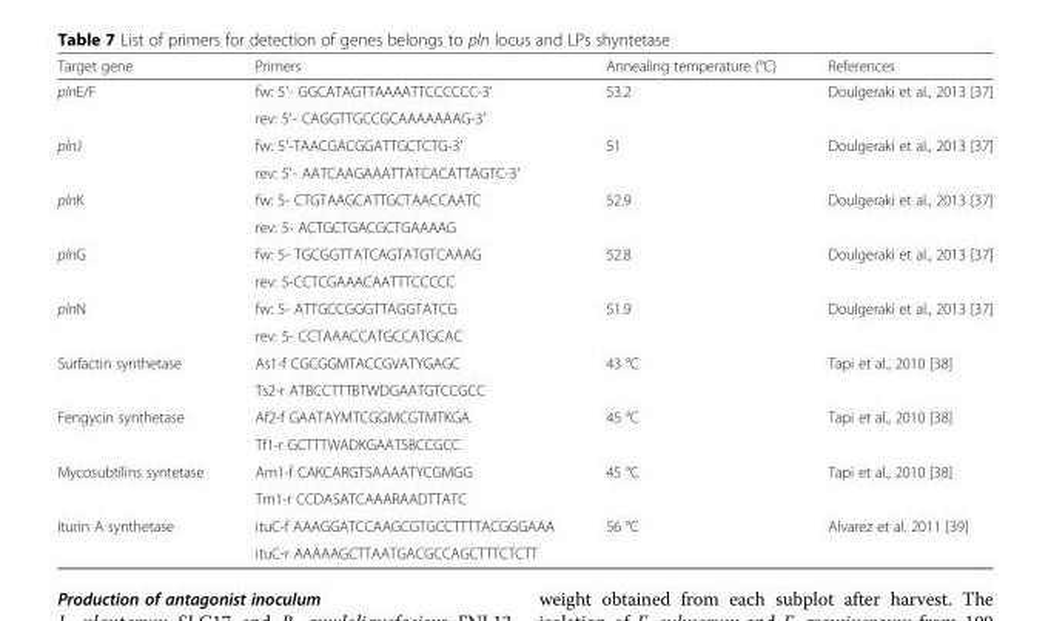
<table><thead><tr><td>Target gene</td><td>Primers</td><td>Annealing temperature (°C)</td><td>References</td></tr></thead><tbody><tr><td rowspan="2">plnE/F</td><td>fw: 5′- GGCATAGTTAAAATTCCCCCC-3′</td><td rowspan="2">53.2</td><td rowspan="2">Doulgeraki et al., 2013 [37]</td></tr><tr><td>rev: 5′- CAGGTTGCCGCAAAAAAAG-3′</td></tr><tr><td rowspan="2">plnJ</td><td>fw: 5′-TAACGACGGATTGCTCTG-3′</td><td rowspan="2">51</td><td rowspan="2">Doulgeraki et al., 2013 [37]</td></tr><tr><td>rev: 5′- AATCAAGAAATTATCACATTAGTC-3′</td></tr><tr><td rowspan="2">plnK</td><td>fw: 5- CTGTAAGCATTGCTAACCAATC</td><td rowspan="2">52.9</td><td rowspan="2">Doulgeraki et al., 2013 [37]</td></tr><tr><td>rev: 5- ACTGCTGACGCTGAAAAG</td></tr><tr><td rowspan="2">plnG</td><td>fw: 5- TGCGGTTATCAGTATGTCAAAG</td><td rowspan="2">52.8</td><td rowspan="2">Doulgeraki et al., 2013 [37]</td></tr><tr><td>rev: 5-CCTCGAAACAATTTCCCCC</td></tr><tr><td rowspan="2">plnN</td><td>fw: 5- ATTGCCGGGTTAGGTATCG</td><td rowspan="2">51.9</td><td rowspan="2">Doulgeraki et al., 2013 [37]</td></tr><tr><td>rev: 5- CCTAAACCATGCCATGCAC</td></tr><tr><td rowspan="2">Surfactin synthetase</td><td>As1-f CGCGGMTACCGVATYGAGC</td><td rowspan="2">43 °C</td><td rowspan="2">Tapi et al., 2010 [38]</td></tr><tr><td>Ts2-r ATBCCTTTBTWDGAATGTCCGCC</td></tr><tr><td rowspan="2">Fengycin synthetase</td><td>Af2-f GAATAYMTCGGMCGTMTKGA</td><td rowspan="2">45 °C</td><td rowspan="2">Tapi et al., 2010 [38]</td></tr><tr><td>Tf1-r GCTTTWADKGAATSBCCGCC</td></tr><tr><td rowspan="2">Mycosubtilins syntetase</td><td>Am1-f CAKCARGTSAAAATYCGMGG</td><td rowspan="2">45 °C</td><td rowspan="2">Tapi et al., 2010 [38]</td></tr><tr><td>Tm1-r CCDASATCAAARAADTTATC</td></tr><tr><td rowspan="2">Iturin A synthetase</td><td>ituC-f AAAGGATCCAAGCGTGCCTTTTACGGGAAA</td><td rowspan="2">56 °C</td><td rowspan="2">Alvarez et al. 2011 [39]</td></tr><tr><td>ituC-r AAAAAGCTTAATGACGCCAGCTTTCTCTT</td></tr></tbody></table>